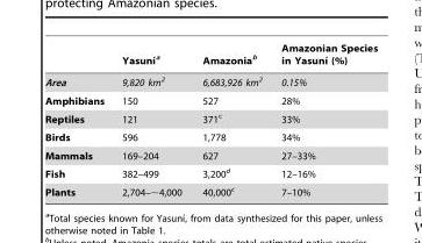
<table><thead><tr><td></td><td>Yasunı´a</td><td>Amazonia<sup>b</sup></td><td>Amazonian Species in Yasunı´ (%)</td></tr></thead><tbody><tr><td>Area</td><td>9,820 km<sup>2</sup></td><td>6,683,926 km<sup>2</sup></td><td>0.15%</td></tr><tr><td>Amphibians</td><td>150</td><td>527</td><td>28%</td></tr><tr><td>Reptiles</td><td>121</td><td>371<sup>c</sup></td><td>33%</td></tr><tr><td>Birds</td><td>596</td><td>1,778</td><td>34%</td></tr><tr><td>Mammals</td><td>169–204</td><td>627</td><td>27–33%</td></tr><tr><td>Fish</td><td>382–499</td><td>3,200<sup>d</sup></td><td>12–16%</td></tr><tr><td>Plants</td><td>2,704–∼4,000</td><td>40,000<sup>c</sup></td><td>7–10%</td></tr></tbody></table>